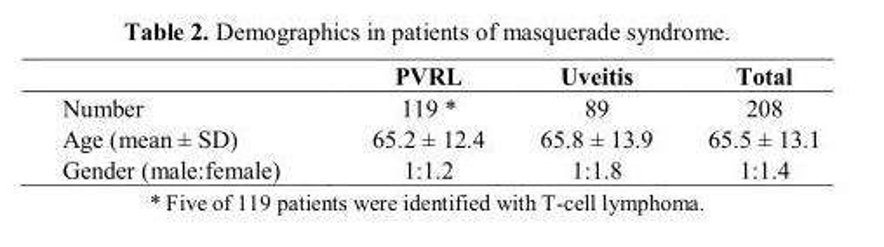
<table><thead><tr><td></td><td>PVRL</td><td>Uveitis</td><td>Total</td></tr></thead><tbody><tr><td>Number</td><td>119 *</td><td>89</td><td>208</td></tr><tr><td>Age (mean ± SD)</td><td>65.2 ± 12.4</td><td>65.8 ± 13.9</td><td>65.5 ± 13.1</td></tr><tr><td>Gender (male:female)</td><td>1:1.2</td><td>1:1.8</td><td>1:1.4</td></tr></tbody></table>